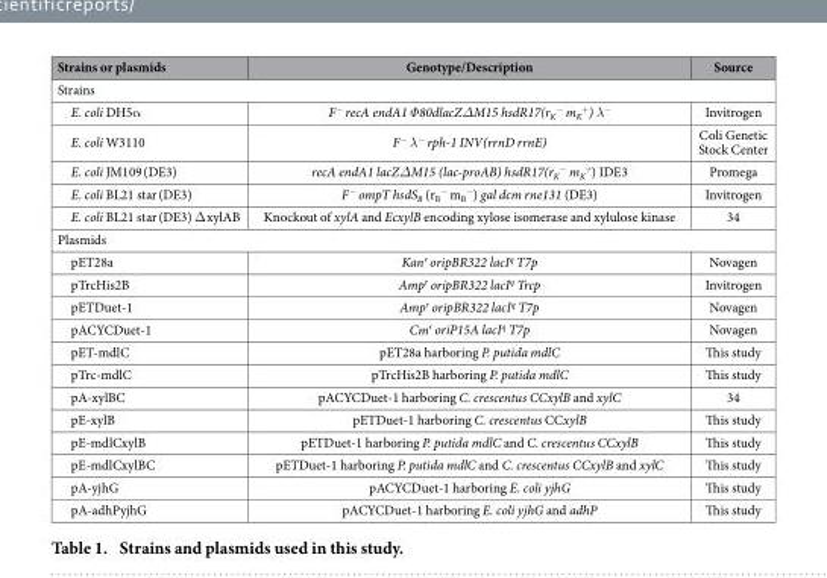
<table><thead><tr><td>Strains or plasmids</td><td>Genotype/Description</td><td>Source</td></tr></thead><tbody><tr><td colspan="3">Strains</td></tr><tr><td>E. coli DH5α</td><td>F<sup>−</sup> recA endA1 Φ80dlacZΔM15 hsdR17(r<sub>K</sub> <sup>−</sup> m<sub>K</sub> <sup>+</sup>) λ<sup>−</sup></td><td>Invitrogen</td></tr><tr><td>E. coli W3110</td><td>F<sup>−</sup> λ<sup>−</sup> rph-1 INV(rrnD rrnE)</td><td>Coli Genetic Stock Center</td></tr><tr><td>E. coli JM109 (DE3)</td><td>recA endA1 lacZΔM15 (lac-proAB) hsdR17(r<sub>K</sub> <sup>−</sup> m<sub>K</sub> <sup>+</sup>) IDE3</td><td>Promega</td></tr><tr><td>E. coli BL21 star (DE3)</td><td>F<sup>−</sup> ompT hsdS<sub>B</sub> (r<sub>B</sub> <sup>−</sup> m<sub>B</sub> <sup>−</sup>) gal dcm rne131 (DE3)</td><td>Invitrogen</td></tr><tr><td>E. coli BL21 star (DE3) Δ xylAB</td><td>Knockout of xylA and EcxylB encoding xylose isomerase and xylulose kinase</td><td>34</td></tr><tr><td colspan="3">Plasmids</td></tr><tr><td>pET28a</td><td>Kan<sup>r</sup> oripBR322 lacI<sup>q</sup> T7p</td><td>Novagen</td></tr><tr><td>pTrcHis2B</td><td>Amp<sup>r</sup> oripBR322 lacI<sup>q</sup> Trcp</td><td>Invitrogen</td></tr><tr><td>pETDuet-1</td><td>Amp<sup>r</sup> oripBR322 lacI<sup>q</sup> T7p</td><td>Novagen</td></tr><tr><td>pACYCDuet-1</td><td>Cm<sup>r</sup> oriP15A lacI<sup>q</sup> T7p</td><td>Novagen</td></tr><tr><td>pET-mdlC</td><td>pET28a harboring P. putida mdlC</td><td>This study</td></tr><tr><td>pTrc-mdlC</td><td>pTrcHis2B harboring P. putida mdlC</td><td>This study</td></tr><tr><td>pA-xylBC</td><td>pACYCDuet-1 harboring C. crescentus CCxylB and xylC</td><td>34</td></tr><tr><td>pE-xylB</td><td>pETDuet-1 harboring C. crescentus CCxylB</td><td>This study</td></tr><tr><td>pE-mdlCxylB</td><td>pETDuet-1 harboring P. putida mdlC and C. crescentus CCxylB</td><td>This study</td></tr><tr><td>pE-mdlCxylBC</td><td>pETDuet-1 harboring P. putida mdlC and C. crescentus CCxylB and xylC</td><td>This study</td></tr><tr><td>pA-yjhG</td><td>pACYCDuet-1 harboring E. coli yjhG</td><td>This study</td></tr><tr><td>pA-adhPyjhG</td><td>pACYCDuet-1 harboring E. coli yjhG and adhP</td><td>This study</td></tr></tbody></table>